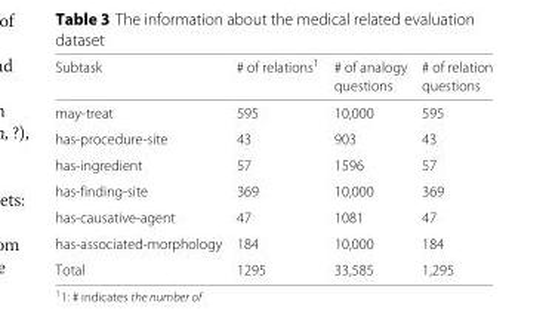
<table><thead><tr><td rowspan="2">Subtask</td><td rowspan="2"># of relations<sup>1</sup></td><td rowspan="2"># of analogy questions</td><td rowspan="2"># of relation questions</td></tr><tr></tr></thead><tbody><tr><td>may-treat</td><td>595</td><td>10,000</td><td>595</td></tr><tr><td>has-procedure-site</td><td>43</td><td>903</td><td>43</td></tr><tr><td>has-ingredient</td><td>57</td><td>1596</td><td>57</td></tr><tr><td>has-finding-site</td><td>369</td><td>10,000</td><td>369</td></tr><tr><td>has-causative-agent</td><td>47</td><td>1081</td><td>47</td></tr><tr><td>has-associated-morphology</td><td>184</td><td>10,000</td><td>184</td></tr><tr><td>Total</td><td>1295</td><td>33,585</td><td>1,295</td></tr></tbody></table>